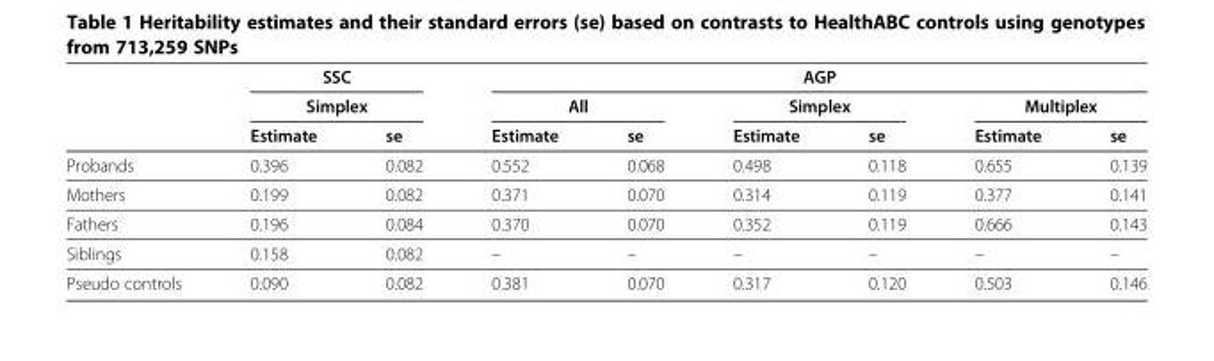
<table><thead><tr><td rowspan="3"></td><td rowspan="2" colspan="2">SSC Simplex</td><td colspan="6">AGP</td></tr><tr><td colspan="2">All</td><td colspan="2">Simplex</td><td colspan="2">Multiplex</td></tr><tr><td>Estimate</td><td>se</td><td>Estimate</td><td>se</td><td>Estimate</td><td>se</td><td>Estimate</td><td>se</td></tr></thead><tbody><tr><td>Probands</td><td>0.396</td><td>0.082</td><td>0.552</td><td>0.068</td><td>0.498</td><td>0.118</td><td>0.655</td><td>0.139</td></tr><tr><td>Mothers</td><td>0.199</td><td>0.082</td><td>0.371</td><td>0.070</td><td>0.314</td><td>0.119</td><td>0.377</td><td>0.141</td></tr><tr><td>Fathers</td><td>0.196</td><td>0.084</td><td>0.370</td><td>0.070</td><td>0.352</td><td>0.119</td><td>0.666</td><td>0.143</td></tr><tr><td>Siblings</td><td>0.158</td><td>0.082</td><td>–</td><td>–</td><td>–</td><td>–</td><td>–</td><td>–</td></tr><tr><td>Pseudo controls</td><td>0.090</td><td>0.082</td><td>0.381</td><td>0.070</td><td>0.317</td><td>0.120</td><td>0.503</td><td>0.146</td></tr></tbody></table>